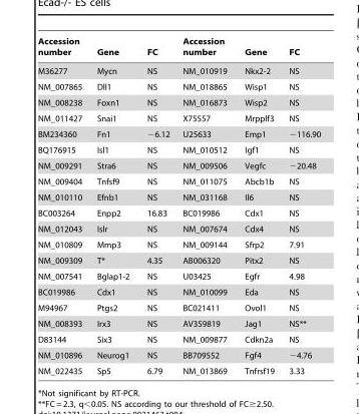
<table><thead><tr><td>Accession number</td><td>Gene</td><td>FC</td><td>Accession number</td><td>Gene</td><td>FC</td></tr></thead><tbody><tr><td>M36277</td><td>Mycn</td><td>NS</td><td>NM_010919</td><td>Nkx2-2</td><td>NS</td></tr><tr><td>NM_007865</td><td>Dll1</td><td>NS</td><td>NM_018865</td><td>Wisp1</td><td>NS</td></tr><tr><td>NM_008238</td><td>Foxn1</td><td>NS</td><td>NM_016873</td><td>Wisp2</td><td>NS</td></tr><tr><td>NM_011427</td><td>Snai1</td><td>NS</td><td>X75557</td><td>Mrpplf3</td><td>NS</td></tr><tr><td>BM234360</td><td>Fn1</td><td>−6.12</td><td>U25633</td><td>Emp1</td><td>−116.90</td></tr><tr><td>BQ176915</td><td>Isl1</td><td>NS</td><td>NM_010512</td><td>Igf1</td><td>NS</td></tr><tr><td>NM_009291</td><td>Stra6</td><td>NS</td><td>NM_009506</td><td>Vegfc</td><td>−20.48</td></tr><tr><td>NM_009404</td><td>Tnfsf9</td><td>NS</td><td>NM_011075</td><td>Abcb1b</td><td>NS</td></tr><tr><td>NM_010110</td><td>Efnb1</td><td>NS</td><td>NM_031168</td><td>Il6</td><td>NS</td></tr><tr><td>BC003264</td><td>Enpp2</td><td>16.83</td><td>BC019986</td><td>Cdx1</td><td>NS</td></tr><tr><td>NM_012043</td><td>Islr</td><td>NS</td><td>NM_007674</td><td>Cdx4</td><td>NS</td></tr><tr><td>NM_010809</td><td>Mmp3</td><td>NS</td><td>NM_009144</td><td>Sfrp2</td><td>7.91</td></tr><tr><td>NM_009309</td><td>T*</td><td>4.35</td><td>AB006320</td><td>Pitx2</td><td>NS</td></tr><tr><td>NM_007541</td><td>Bglap1-2</td><td>NS</td><td>U03425</td><td>Egfr</td><td>4.98</td></tr><tr><td>BC019986</td><td>Cdx1</td><td>NS</td><td>NM_010099</td><td>Eda</td><td>NS</td></tr><tr><td>M94967</td><td>Ptgs2</td><td>NS</td><td>BC021411</td><td>Ovol1</td><td>NS</td></tr><tr><td>NM_008393</td><td>Irx3</td><td>NS</td><td>AV359819</td><td>Jag1</td><td>NS**</td></tr><tr><td>D83144</td><td>Six3</td><td>NS</td><td>NM_009877</td><td>Cdkn2a</td><td>NS</td></tr><tr><td>NM_010896</td><td>Neurog1</td><td>NS</td><td>BB709552</td><td>Fgf4</td><td>−4.76</td></tr><tr><td>NM_022435</td><td>Sp5</td><td>6.79</td><td>NM_013869</td><td>Tnfrsf19</td><td>3.33</td></tr></tbody></table>